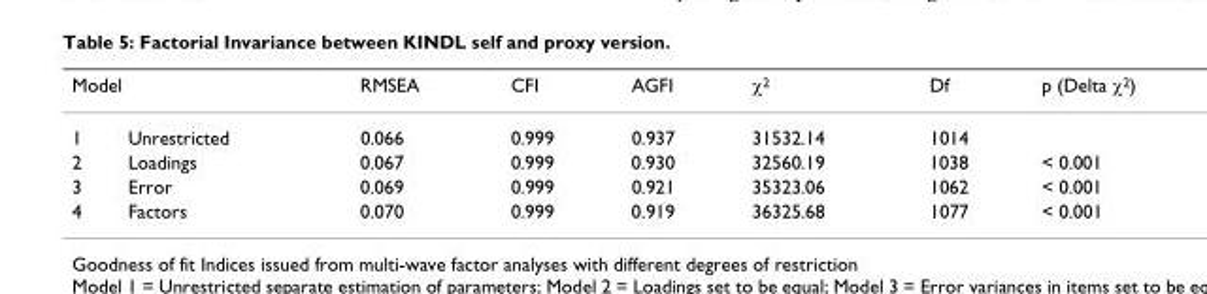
<table><thead><tr><td colspan="2">Model</td><td rowspan="2">RMSEA 0.066</td><td rowspan="2">CFI 0.999</td><td rowspan="2">AGFI 0.937</td><td rowspan="2">χ<sup>2</sup> 31532.14</td><td rowspan="2">Df 1014</td><td rowspan="2">p (Delta χ<sup>2</sup>)</td></tr><tr><td>1</td><td>Unrestricted</td></tr></thead><tbody><tr><td>2</td><td>Loadings</td><td>0.067</td><td>0.999</td><td>0.930</td><td>32560.19</td><td>1038</td><td>&lt; 0.001</td></tr><tr><td>3</td><td>Error</td><td>0.069</td><td>0.999</td><td>0.921</td><td>35323.06</td><td>1062</td><td>&lt; 0.001</td></tr><tr><td>4</td><td>Factors</td><td>0.070</td><td>0.999</td><td>0.919</td><td>36325.68</td><td>1077</td><td>&lt; 0.001</td></tr></tbody></table>